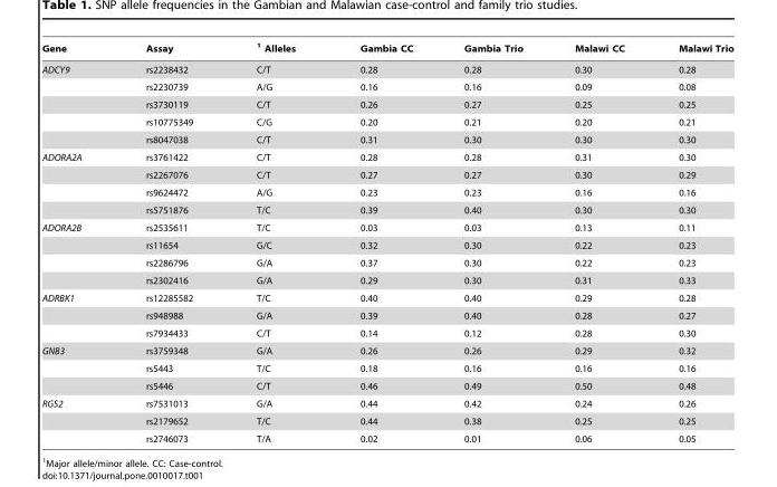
<table><thead><tr><td>Gene</td><td>Assay</td><td>1 Alleles</td><td>Gambia CC</td><td>Gambia Trio</td><td>Malawi CC</td><td>Malawi Trio</td></tr></thead><tbody><tr><td rowspan="5">ADCY9</td><td>rs2238432</td><td>C/T</td><td>0.28</td><td>0.28</td><td>0.30</td><td>0.28</td></tr><tr><td>rs2230739</td><td>A/G</td><td>0.16</td><td>0.16</td><td>0.09</td><td>0.08</td></tr><tr><td>rs3730119</td><td>C/T</td><td>0.26</td><td>0.27</td><td>0.25</td><td>0.25</td></tr><tr><td>rs10775349</td><td>C/G</td><td>0.20</td><td>0.21</td><td>0.20</td><td>0.21</td></tr><tr><td>rs8047038</td><td>C/T</td><td>0.31</td><td>0.30</td><td>0.30</td><td>0.30</td></tr><tr><td rowspan="4">ADORA2A</td><td>rs3761422</td><td>C/T</td><td>0.28</td><td>0.28</td><td>0.31</td><td>0.30</td></tr><tr><td>rs2267076</td><td>C/T</td><td>0.27</td><td>0.27</td><td>0.30</td><td>0.29</td></tr><tr><td>rs9624472</td><td>A/G</td><td>0.23</td><td>0.23</td><td>0.16</td><td>0.16</td></tr><tr><td>rs5751876</td><td>T/C</td><td>0.39</td><td>0.40</td><td>0.30</td><td>0.30</td></tr><tr><td rowspan="4">ADORA2B</td><td>rs2535611</td><td>T/C</td><td>0.03</td><td>0.03</td><td>0.13</td><td>0.11</td></tr><tr><td>rs11654</td><td>G/C</td><td>0.32</td><td>0.30</td><td>0.22</td><td>0.23</td></tr><tr><td>rs2286796</td><td>G/A</td><td>0.37</td><td>0.30</td><td>0.22</td><td>0.23</td></tr><tr><td>rs2302416</td><td>G/A</td><td>0.29</td><td>0.30</td><td>0.31</td><td>0.33</td></tr><tr><td rowspan="3">ADRBK1</td><td>rs12285582</td><td>T/C</td><td>0.40</td><td>0.40</td><td>0.29</td><td>0.28</td></tr><tr><td>rs948988</td><td>G/A</td><td>0.39</td><td>0.40</td><td>0.28</td><td>0.27</td></tr><tr><td>rs7934433</td><td>C/T</td><td>0.14</td><td>0.12</td><td>0.28</td><td>0.30</td></tr><tr><td rowspan="3">GNB3</td><td>rs3759348</td><td>G/A</td><td>0.26</td><td>0.26</td><td>0.29</td><td>0.32</td></tr><tr><td>rs5443</td><td>T/C</td><td>0.18</td><td>0.16</td><td>0.16</td><td>0.16</td></tr><tr><td>rs5446</td><td>C/T</td><td>0.46</td><td>0.49</td><td>0.50</td><td>0.48</td></tr><tr><td rowspan="3">RGS2</td><td>rs7531013</td><td>G/A</td><td>0.44</td><td>0.42</td><td>0.24</td><td>0.26</td></tr><tr><td>rs2179652</td><td>T/C</td><td>0.44</td><td>0.38</td><td>0.25</td><td>0.25</td></tr><tr><td>rs2746073</td><td>T/A</td><td>0.02</td><td>0.01</td><td>0.06</td><td>0.05</td></tr></tbody></table>